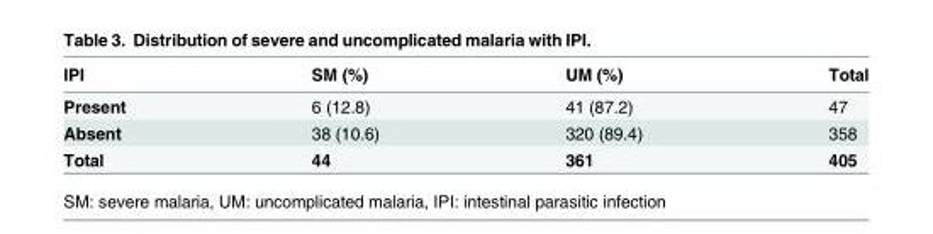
<table><thead><tr><td>IPI</td><td>SM (%)</td><td>UM (%)</td><td>Total</td></tr></thead><tbody><tr><td>Present</td><td>6 (12.8)</td><td>41 (87.2)</td><td>47</td></tr><tr><td>Absent</td><td>38 (10.6)</td><td>320 (89.4)</td><td>358</td></tr><tr><td>Total</td><td>44</td><td>361</td><td>405</td></tr></tbody></table>